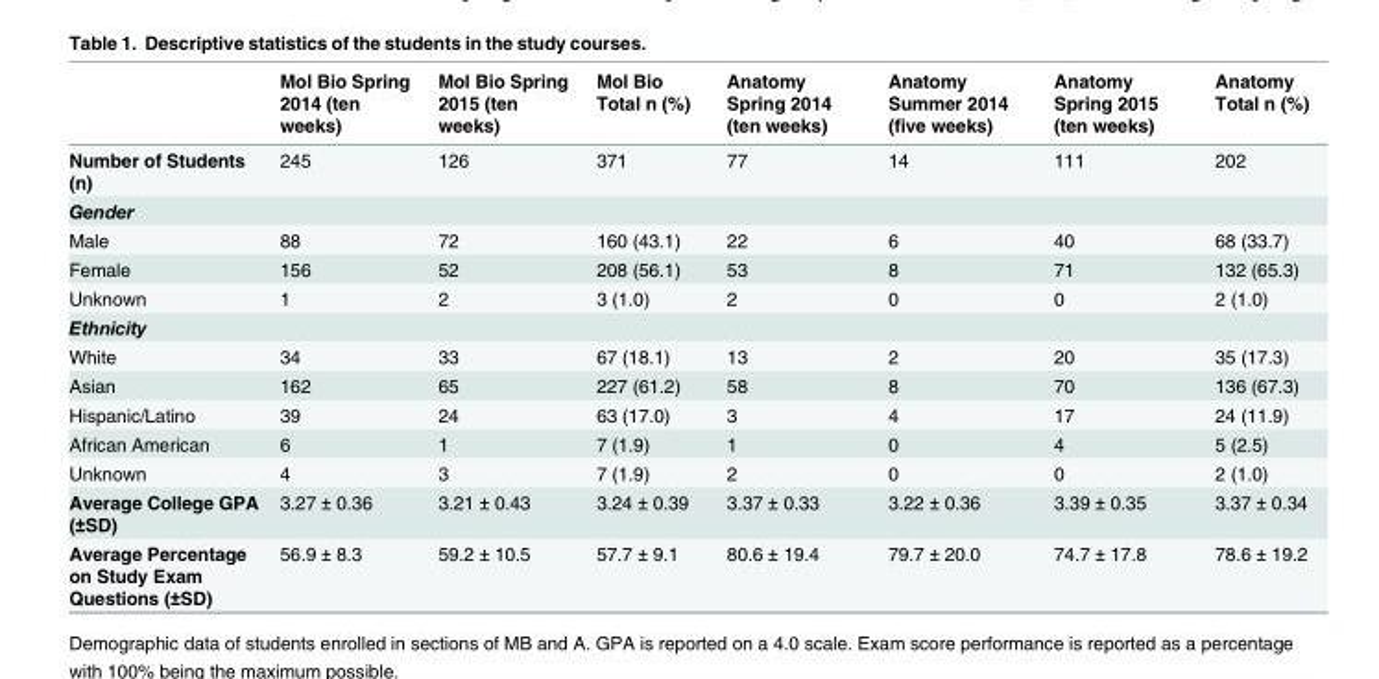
<table><thead><tr><td></td><td>Mol Bio Spring 2014 (ten weeks)</td><td>Mol Bio Spring 2015 (ten weeks)</td><td>Mol Bio Total n (%)</td><td>Anatomy Spring 2014 (ten weeks)</td><td>Anatomy Summer 2014 (five weeks)</td><td>Anatomy Spring 2015 (ten weeks)</td><td>Anatomy Total n (%)</td></tr></thead><tbody><tr><td>Number of Students (n)</td><td>245</td><td>126</td><td>371</td><td>77</td><td>14</td><td>111</td><td>202</td></tr><tr><td colspan="8">Gender</td></tr><tr><td>Male</td><td>88</td><td>72</td><td>160 (43.1)</td><td>22</td><td>6</td><td>40</td><td>68 (33.7)</td></tr><tr><td>Female</td><td>156</td><td>52</td><td>208 (56.1)</td><td>53</td><td>8</td><td>71</td><td>132 (65.3)</td></tr><tr><td>Unknown</td><td>1</td><td>2</td><td>3 (1.0)</td><td>2</td><td>0</td><td>0</td><td>2 (1.0)</td></tr><tr><td colspan="8">Ethnicity</td></tr><tr><td>White</td><td>34</td><td>33</td><td>67 (18.1)</td><td>13</td><td>2</td><td>20</td><td>35 (17.3)</td></tr><tr><td>Asian</td><td>162</td><td>65</td><td>227 (61.2)</td><td>58</td><td>8</td><td>70</td><td>136 (67.3)</td></tr><tr><td>Hispanic/Latino</td><td>39</td><td>24</td><td>63 (17.0)</td><td>3</td><td>4</td><td>17</td><td>24 (11.9)</td></tr><tr><td>African American</td><td>6</td><td>1</td><td>7 (1.9)</td><td>1</td><td>0</td><td>4</td><td>5 (2.5)</td></tr><tr><td>Unknown</td><td>4</td><td>3</td><td>7 (1.9)</td><td>2</td><td>0</td><td>0</td><td>2 (1.0)</td></tr><tr><td>Average College GPA (±SD)</td><td>3.27 ± 0.36</td><td>3.21 ± 0.43</td><td>3.24 ± 0.39</td><td>3.37 ± 0.33</td><td>3.22 ± 0.36</td><td>3.39 ± 0.35</td><td>3.37 ± 0.34</td></tr><tr><td>Average Percentage on Study Exam Questions (±SD)</td><td>56.9 ± 8.3</td><td>59.2 ± 10.5</td><td>57.7 ± 9.1</td><td>80.6 ± 19.4</td><td>79.7 ± 20.0</td><td>74.7 ± 17.8</td><td>78.6 ± 19.2</td></tr></tbody></table>